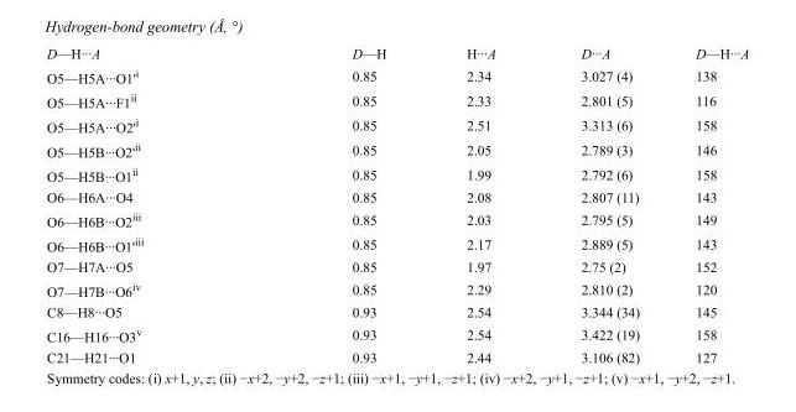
<table><tbody><tr><td>D—H···A</td><td>D—H</td><td>H···A</td><td>D···A</td><td>D—H···A</td></tr><tr><td>O5—H5A···O1&#x27;<sup>i</sup></td><td>0.85</td><td>2.34</td><td>3.027 (4)</td><td>138</td></tr><tr><td>O5—H5A···F1<sup>ii</sup></td><td>0.85</td><td>2.33</td><td>2.801 (5)</td><td>116</td></tr><tr><td>O5—H5A···O2&#x27;<sup>i</sup></td><td>0.85</td><td>2.51</td><td>3.313 (6)</td><td>158</td></tr><tr><td>O5—H5B···O2&#x27;<sup>ii</sup></td><td>0.85</td><td>2.05</td><td>2.789 (3)</td><td>146</td></tr><tr><td>O5—H5B···O1<sup>ii</sup></td><td>0.85</td><td>1.99</td><td>2.792 (6)</td><td>158</td></tr><tr><td>O6—H6A···O4</td><td>0.85</td><td>2.08</td><td>2.807 (11)</td><td>143</td></tr><tr><td>O6—H6B···O2<sup>iii</sup></td><td>0.85</td><td>2.03</td><td>2.795 (5)</td><td>149</td></tr><tr><td>O6—H6B···O1&#x27;<sup>iii</sup></td><td>0.85</td><td>2.17</td><td>2.889 (5)</td><td>143</td></tr><tr><td>O7—H7A···O5</td><td>0.85</td><td>1.97</td><td>2.75 (2)</td><td>152</td></tr><tr><td>O7—H7B···O6<sup>iv</sup></td><td>0.85</td><td>2.29</td><td>2.810 (2)</td><td>120</td></tr><tr><td>C8—H8···O5</td><td>0.93</td><td>2.54</td><td>3.344 (34)</td><td>145</td></tr><tr><td>C16—H16···O3<sup>v</sup></td><td>0.93</td><td>2.54</td><td>3.422 (19)</td><td>158</td></tr><tr><td>C21—H21···O1</td><td>0.93</td><td>2.44</td><td>3.106 (82)</td><td>127</td></tr></tbody></table>